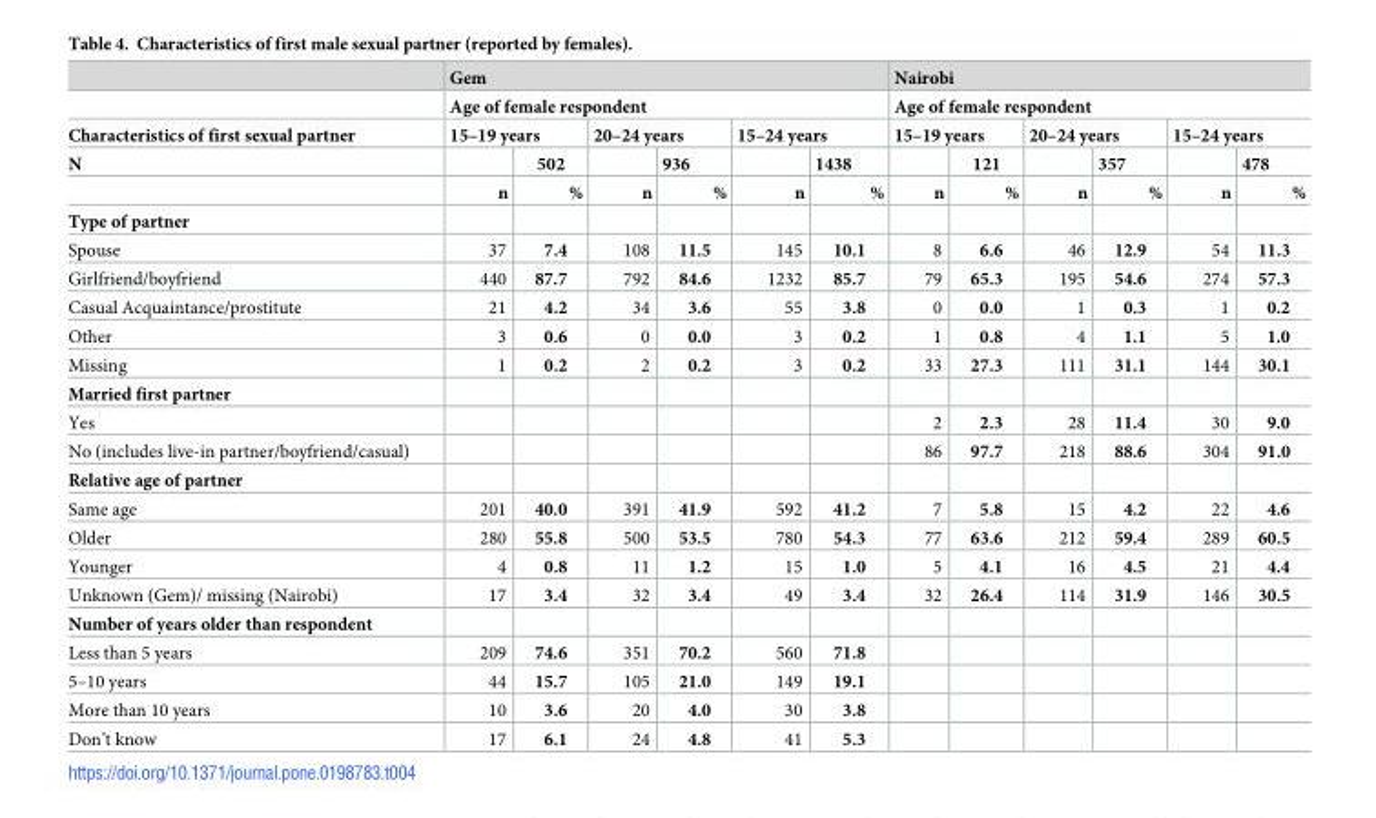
<table><thead><tr><td rowspan="5">Characteristics of first sexual partner N</td><td rowspan="2" colspan="6">Gem Age of female respondent</td><td rowspan="2" colspan="6">Nairobi Age of female respondent</td></tr><tr></tr><tr><td colspan="2">15–19 years</td><td colspan="2">20–24 years</td><td colspan="2">15–24 years</td><td colspan="2">15–19 years</td><td colspan="2">20–24 years</td><td colspan="2">15–24 years</td></tr><tr><td rowspan="2">n</td><td rowspan="2">502 %</td><td rowspan="2">n</td><td rowspan="2">936 %</td><td rowspan="2">n</td><td rowspan="2">1438 %</td><td rowspan="2">n</td><td rowspan="2">121 %</td><td rowspan="2">n</td><td rowspan="2">357 %</td><td rowspan="2">n</td><td rowspan="2">478 %</td></tr><tr></tr></thead><tbody><tr><td colspan="13">Type of partner</td></tr><tr><td>Spouse</td><td>37</td><td>7.4</td><td>108</td><td>11.5</td><td>145</td><td>10.1</td><td>8</td><td>6.6</td><td>46</td><td>12.9</td><td>54</td><td>11.3</td></tr><tr><td>Girlfriend/boyfriend</td><td>440</td><td>87.7</td><td>792</td><td>84.6</td><td>1232</td><td>85.7</td><td>79</td><td>65.3</td><td>195</td><td>54.6</td><td>274</td><td>57.3</td></tr><tr><td>Casual Acquaintance/prostitute</td><td>21</td><td>4.2</td><td>34</td><td>3.6</td><td>55</td><td>3.8</td><td>0</td><td>0.0</td><td>1</td><td>0.3</td><td>1</td><td>0.2</td></tr><tr><td>Other</td><td>3</td><td>0.6</td><td>0</td><td>0.0</td><td>3</td><td>0.2</td><td>1</td><td>0.8</td><td>4</td><td>1.1</td><td>5</td><td>1.0</td></tr><tr><td>Missing</td><td>1</td><td>0.2</td><td>2</td><td>0.2</td><td>3</td><td>0.2</td><td>33</td><td>27.3</td><td>111</td><td>31.1</td><td>144</td><td>30.1</td></tr><tr><td colspan="13">Married first partner</td></tr><tr><td>Yes</td><td></td><td></td><td></td><td></td><td></td><td></td><td>2</td><td>2.3</td><td>28</td><td>11.4</td><td>30</td><td>9.0</td></tr><tr><td>No (includes live-in partner/boyfriend/casual)</td><td></td><td></td><td></td><td></td><td></td><td></td><td>86</td><td>97.7</td><td>218</td><td>88.6</td><td>304</td><td>91.0</td></tr><tr><td colspan="13">Relative age of partner</td></tr><tr><td>Same age</td><td>201</td><td>40.0</td><td>391</td><td>41.9</td><td>592</td><td>41.2</td><td>7</td><td>5.8</td><td>15</td><td>4.2</td><td>22</td><td>4.6</td></tr><tr><td>Older</td><td>280</td><td>55.8</td><td>500</td><td>53.5</td><td>780</td><td>54.3</td><td>77</td><td>63.6</td><td>212</td><td>59.4</td><td>289</td><td>60.5</td></tr><tr><td>Younger</td><td>4</td><td>0.8</td><td>11</td><td>1.2</td><td>15</td><td>1.0</td><td>5</td><td>4.1</td><td>16</td><td>4.5</td><td>21</td><td>4.4</td></tr><tr><td>Unknown (Gem)/ missing (Nairobi)</td><td>17</td><td>3.4</td><td>32</td><td>3.4</td><td>49</td><td>3.4</td><td>32</td><td>26.4</td><td>114</td><td>31.9</td><td>146</td><td>30.5</td></tr><tr><td colspan="13">Number of years older than respondent</td></tr><tr><td>Less than 5 years</td><td>209</td><td>74.6</td><td>351</td><td>70.2</td><td>560</td><td>71.8</td><td></td><td></td><td></td><td></td><td></td><td></td></tr><tr><td>5–10 years</td><td>44</td><td>15.7</td><td>105</td><td>21.0</td><td>149</td><td>19.1</td><td></td><td></td><td></td><td></td><td></td><td></td></tr><tr><td>More than 10 years</td><td>10</td><td>3.6</td><td>20</td><td>4.0</td><td>30</td><td>3.8</td><td></td><td></td><td></td><td></td><td></td><td></td></tr><tr><td>Don’t know</td><td>17</td><td>6.1</td><td>24</td><td>4.8</td><td>41</td><td>5.3</td><td></td><td></td><td></td><td></td><td></td><td></td></tr></tbody></table>